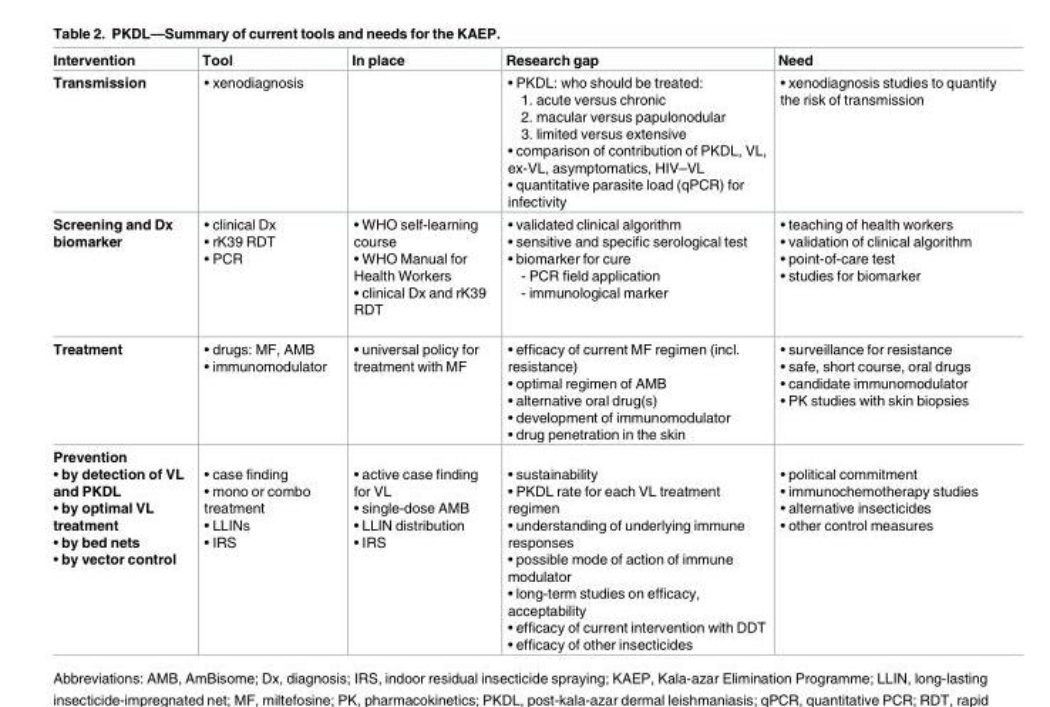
<table><thead><tr><td>Intervention</td><td>Tool</td><td>In place</td><td>Research gap</td><td>Need</td></tr></thead><tbody><tr><td>Transmission</td><td>• xenodiagnosis</td><td></td><td>• PKDL: who should be treated: 1. acute versus chronic 2. macular versus papulonodular 3. limited versus extensive • comparison of contribution of PKDL, VL, ex-VL, asymptomatics, HIV–VL • quantitative parasite load (qPCR) for infectivity</td><td>• xenodiagnosis studies to quantify the risk of transmission</td></tr><tr><td>Screening and Dx biomarker</td><td>• clinical Dx • rK39 RDT • PCR</td><td>• WHO self-learning course • WHO Manual for Health Workers • clinical Dx and rK39 RDT</td><td>• validated clinical algorithm • sensitive and specific serological test • biomarker for cure - PCR field application - immunological marker</td><td>• teaching of health workers • validation of clinical algorithm • point-of-care test • studies for biomarker</td></tr><tr><td>Treatment</td><td>• drugs: MF, AMB • immunomodulator</td><td>• universal policy for treatment with MF</td><td>• efficacy of current MF regimen (incl. resistance) • optimal regimen of AMB • alternative oral drug(s) • development of immunomodulator • drug penetration in the skin</td><td>• surveillance for resistance • safe, short course, oral drugs • candidate immunomodulator • PK studies with skin biopsies</td></tr><tr><td>Prevention • by detection of VL and PKDL • by optimal VL treatment • by bed nets • by vector control</td><td>• case finding • mono or combo treatment • LLINs • IRS</td><td>• active case finding for VL • single-dose AMB • LLIN distribution • IRS</td><td>• sustainability • PKDL rate for each VL treatment regimen • understanding of underlying immune responses • possible mode of action of immune modulator • long-term studies on efficacy, acceptability • efficacy of current intervention with DDT • efficacy of other insecticides</td><td>• political commitment • immunochemotherapy studies • alternative insecticides • other control measures</td></tr></tbody></table>